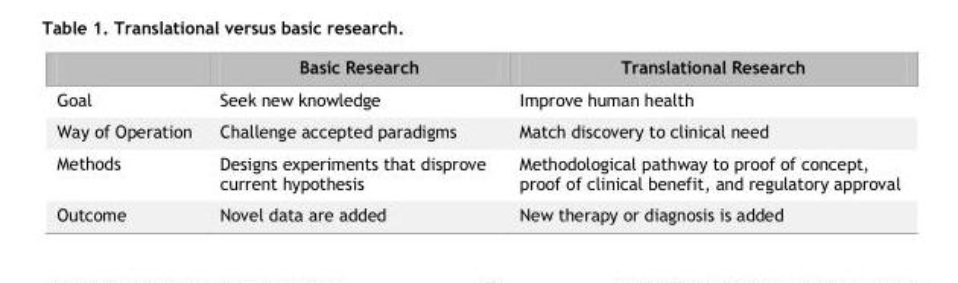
<table><thead><tr><td></td><td>Basic Research</td><td>Translational Research</td></tr></thead><tbody><tr><td>Goal</td><td>Seek new knowledge</td><td>Improve human health</td></tr><tr><td>Way of Operation</td><td>Challenge accepted paradigms</td><td>Match discovery to clinical need</td></tr><tr><td>Methods</td><td>Designs experiments that disprove current hypothesis</td><td>Methodological pathway to proof of concept, proof of clinical benefit, and regulatory approval</td></tr><tr><td>Outcome</td><td>Novel data are added</td><td>New therapy or diagnosis is added</td></tr></tbody></table>